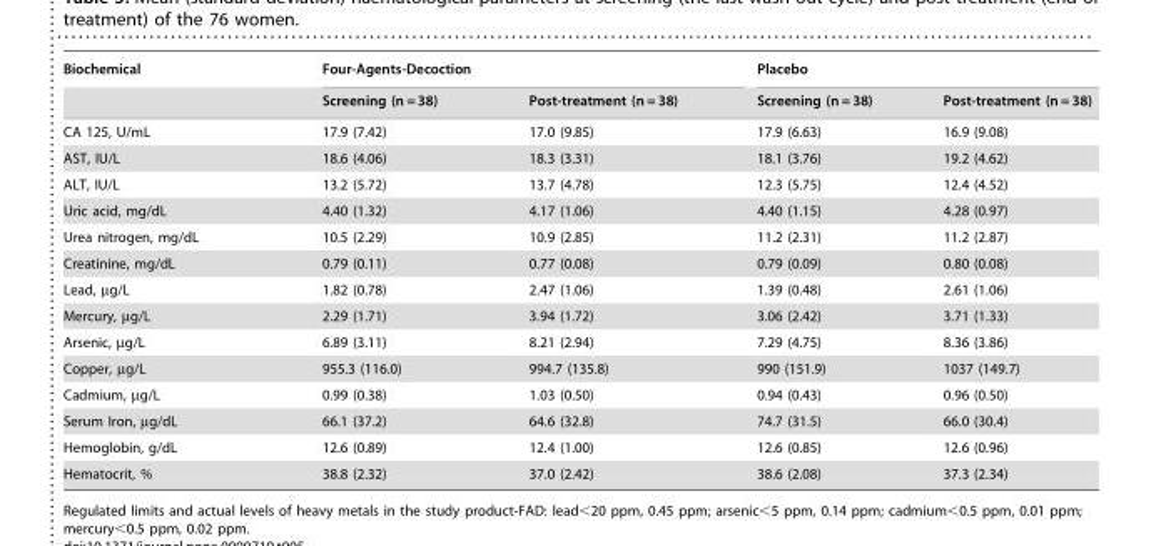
<table><thead><tr><td rowspan="2">Biochemical</td><td colspan="2">Four-Agents-Decoction</td><td colspan="2">Placebo</td></tr><tr><td>Screening (n = 38)</td><td>Post-treatment (n = 38)</td><td>Screening (n = 38)</td><td>Post-treatment (n = 38)</td></tr></thead><tbody><tr><td>CA 125, U/mL</td><td>17.9 (7.42)</td><td>17.0 (9.85)</td><td>17.9 (6.63)</td><td>16.9 (9.08)</td></tr><tr><td>AST, IU/L</td><td>18.6 (4.06)</td><td>18.3 (3.31)</td><td>18.1 (3.76)</td><td>19.2 (4.62)</td></tr><tr><td>ALT, IU/L</td><td>13.2 (5.72)</td><td>13.7 (4.78)</td><td>12.3 (5.75)</td><td>12.4 (4.52)</td></tr><tr><td>Uric acid, mg/dL</td><td>4.40 (1.32)</td><td>4.17 (1.06)</td><td>4.40 (1.15)</td><td>4.28 (0.97)</td></tr><tr><td>Urea nitrogen, mg/dL</td><td>10.5 (2.29)</td><td>10.9 (2.85)</td><td>11.2 (2.31)</td><td>11.2 (2.87)</td></tr><tr><td>Creatinine, mg/dL</td><td>0.79 (0.11)</td><td>0.77 (0.08)</td><td>0.79 (0.09)</td><td>0.80 (0.08)</td></tr><tr><td>Lead, µg/L</td><td>1.82 (0.78)</td><td>2.47 (1.06)</td><td>1.39 (0.48)</td><td>2.61 (1.06)</td></tr><tr><td>Mercury, µg/L</td><td>2.29 (1.71)</td><td>3.94 (1.72)</td><td>3.06 (2.42)</td><td>3.71 (1.33)</td></tr><tr><td>Arsenic, µg/L</td><td>6.89 (3.11)</td><td>8.21 (2.94)</td><td>7.29 (4.75)</td><td>8.36 (3.86)</td></tr><tr><td>Copper, µg/L</td><td>955.3 (116.0)</td><td>994.7 (135.8)</td><td>990 (151.9)</td><td>1037 (149.7)</td></tr><tr><td>Cadmium, µg/L</td><td>0.99 (0.38)</td><td>1.03 (0.50)</td><td>0.94 (0.43)</td><td>0.96 (0.50)</td></tr><tr><td>Serum Iron, µg/dL</td><td>66.1 (37.2)</td><td>64.6 (32.8)</td><td>74.7 (31.5)</td><td>66.0 (30.4)</td></tr><tr><td>Hemoglobin, g/dL</td><td>12.6 (0.89)</td><td>12.4 (1.00)</td><td>12.6 (0.85)</td><td>12.6 (0.96)</td></tr><tr><td>Hematocrit, %</td><td>38.8 (2.32)</td><td>37.0 (2.42)</td><td>38.6 (2.08)</td><td>37.3 (2.34)</td></tr></tbody></table>